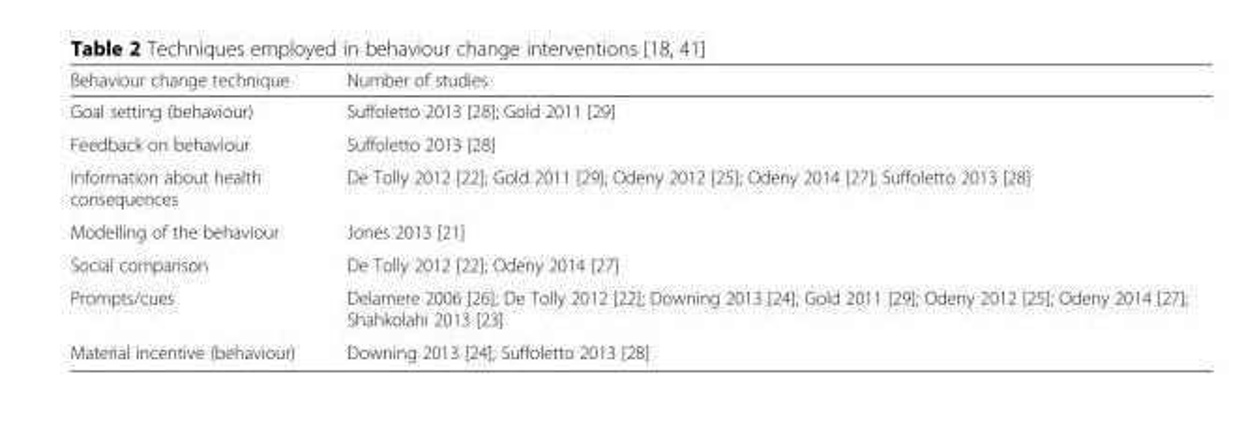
<table><thead><tr><td>Behaviour change technique</td><td>Number of studies</td></tr></thead><tbody><tr><td>Goal setting (behaviour)</td><td>Suffoletto 2013 [28]; Gold 2011 [29]</td></tr><tr><td>Feedback on behaviour</td><td>Suffoletto 2013 [28]</td></tr><tr><td>Information about health consequences</td><td>De Tolly 2012 [22]; Gold 2011 [29]; Odeny 2012 [25]; Odeny 2014 [27]; Suffoletto 2013 [28]</td></tr><tr><td>Modelling of the behaviour</td><td>Jones 2013 [21]</td></tr><tr><td>Social comparison</td><td>De Tolly 2012 [22]; Odeny 2014 [27]</td></tr><tr><td>Prompts/cues</td><td>Delamere 2006 [26]; De Tolly 2012 [22]; Downing 2013 [24]; Gold 2011 [29]; Odeny 2012 [25]; Odeny 2014 [27]; Shahkolahi 2013 [23]</td></tr><tr><td>Material incentive (behaviour)</td><td>Downing 2013 [24]; Suffoletto 2013 [28]</td></tr></tbody></table>